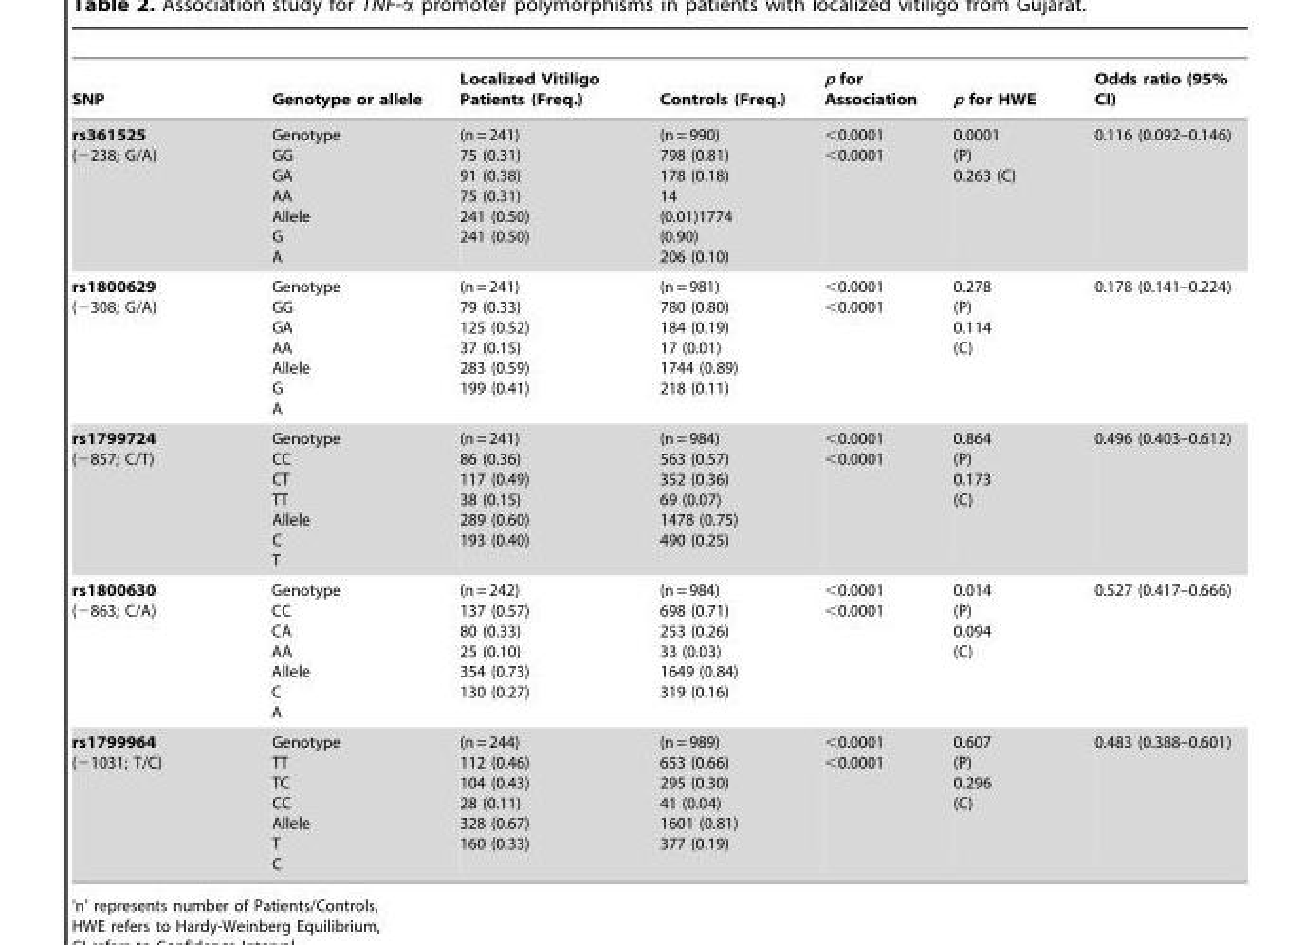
<table><thead><tr><td>SNP</td><td>Genotype or allele</td><td>Localized Vitiligo Patients (Freq.)</td><td>Controls (Freq.)</td><td>p for Association</td><td>p for HWE</td><td>Odds ratio (95% CI)</td></tr></thead><tbody><tr><td>rs361525 (−238; G/A)</td><td>Genotype GG GA AA Allele G A</td><td>(n = 241) 75 (0.31) 91 (0.38) 75 (0.31) 241 (0.50) 241 (0.50)</td><td>(n = 990) 798 (0.81) 178 (0.18) 14 (0.01)1774 (0.90) 206 (0.10)</td><td>&lt;0.0001 &lt;0.0001</td><td>0.0001 (P) 0.263 (C)</td><td>0.116 (0.092–0.146)</td></tr><tr><td>rs1800629 (−308; G/A)</td><td>Genotype GG GA AA Allele G A</td><td>(n = 241) 79 (0.33) 125 (0.52) 37 (0.15) 283 (0.59) 199 (0.41)</td><td>(n = 981) 780 (0.80) 184 (0.19) 17 (0.01) 1744 (0.89) 218 (0.11)</td><td>&lt;0.0001 &lt;0.0001</td><td>0.278 (P) 0.114 (C)</td><td>0.178 (0.141–0.224)</td></tr><tr><td>rs1799724 (−857; C/T)</td><td>Genotype CC CT TT Allele C T</td><td>(n = 241) 86 (0.36) 117 (0.49) 38 (0.15) 289 (0.60) 193 (0.40)</td><td>(n = 984) 563 (0.57) 352 (0.36) 69 (0.07) 1478 (0.75) 490 (0.25)</td><td>&lt;0.0001 &lt;0.0001</td><td>0.864 (P) 0.173 (C)</td><td>0.496 (0.403–0.612)</td></tr><tr><td>rs1800630 (−863; C/A)</td><td>Genotype CC CA AA Allele C A</td><td>(n = 242) 137 (0.57) 80 (0.33) 25 (0.10) 354 (0.73) 130 (0.27)</td><td>(n = 984) 698 (0.71) 253 (0.26) 33 (0.03) 1649 (0.84) 319 (0.16)</td><td>&lt;0.0001 &lt;0.0001</td><td>0.014 (P) 0.094 (C)</td><td>0.527 (0.417–0.666)</td></tr><tr><td>rs1799964 (−1031; T/C)</td><td>Genotype TT TC CC Allele T C</td><td>(n = 244) 112 (0.46) 104 (0.43) 28 (0.11) 328 (0.67) 160 (0.33)</td><td>(n = 989) 653 (0.66) 295 (0.30) 41 (0.04) 1601 (0.81) 377 (0.19)</td><td>&lt;0.0001 &lt;0.0001</td><td>0.607 (P) 0.296 (C)</td><td>0.483 (0.388–0.601)</td></tr></tbody></table>